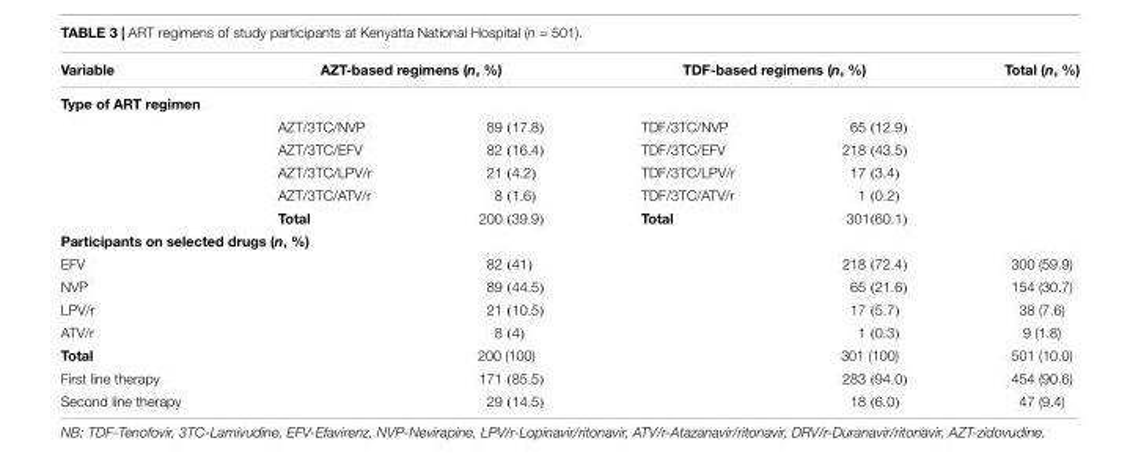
<table><thead><tr><td>Variable</td><td colspan="2">AZT-based regimens (n, %)</td><td colspan="2">TDF-based regimens (n, %)</td><td rowspan="3">Total (n, %)</td></tr><tr><td colspan="5">Type of ART regimen</td></tr><tr><td></td><td>AZT/3TC/NVP</td><td>89 (17.8)</td><td>TDF/3TC/NVP</td><td>65 (12.9)</td></tr></thead><tbody><tr><td></td><td>AZT/3TC/EFV</td><td>82 (16.4)</td><td>TDF/3TC/EFV</td><td>218 (43.5)</td><td></td></tr><tr><td></td><td>AZT/3TC/LPV/r</td><td>21 (4.2)</td><td>TDF/3TC/LPV/r</td><td>17 (3.4)</td><td></td></tr><tr><td></td><td>AZT/3TC/ATV/r</td><td>8 (1.6)</td><td>TDF/3TC/ATV/r</td><td>1 (0.2)</td><td></td></tr><tr><td></td><td>Total</td><td>200 (39.9)</td><td>Total</td><td>301(60.1)</td><td></td></tr><tr><td colspan="6">Participants on selected drugs (n, %)</td></tr><tr><td>EFV</td><td></td><td>82 (41)</td><td></td><td>218 (72.4)</td><td>300 (59.9)</td></tr><tr><td>NVP</td><td></td><td>89 (44.5)</td><td></td><td>65 (21.6)</td><td>154 (30.7)</td></tr><tr><td>LPV/r</td><td></td><td>21 (10.5)</td><td></td><td>17 (5.7)</td><td>38 (7.6)</td></tr><tr><td>ATV/r</td><td></td><td>8 (4)</td><td></td><td>1 (0.3)</td><td>9 (1.8)</td></tr><tr><td>Total</td><td></td><td>200 (100)</td><td></td><td>301 (100)</td><td>501 (10.0)</td></tr><tr><td>First line therapy</td><td></td><td>171 (85.5)</td><td></td><td>283 (94.0)</td><td>454 (90.6)</td></tr><tr><td>Second line therapy</td><td></td><td>29 (14.5)</td><td></td><td>18 (6.0)</td><td>47 (9.4)</td></tr></tbody></table>